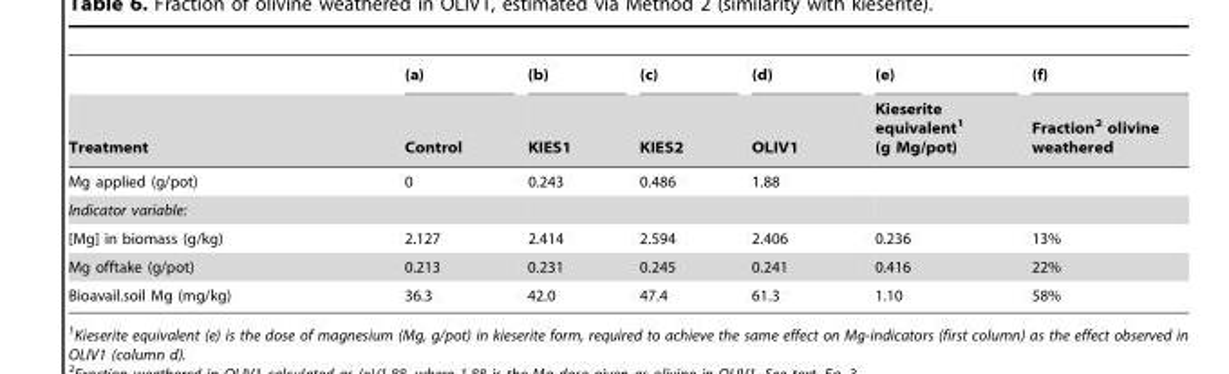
<table><thead><tr><td rowspan="2">Treatment</td><td rowspan="2">(a) Control</td><td rowspan="2">(b) KIES1</td><td rowspan="2">(c) KIES2</td><td rowspan="2">(d) OLIV1</td><td rowspan="2">(e) Kieserite equivalent<sup>1</sup> (g Mg/pot)</td><td rowspan="2">(f) Fraction<sup>2</sup> olivine weathered</td></tr><tr></tr></thead><tbody><tr><td>Mg applied (g/pot)</td><td>0</td><td>0.243</td><td>0.486</td><td>1.88</td><td></td><td></td></tr><tr><td colspan="7">Indicator variable:</td></tr><tr><td>[Mg] in biomass (g/kg)</td><td>2.127</td><td>2.414</td><td>2.594</td><td>2.406</td><td>0.236</td><td>13%</td></tr><tr><td>Mg offtake (g/pot)</td><td>0.213</td><td>0.231</td><td>0.245</td><td>0.241</td><td>0.416</td><td>22%</td></tr><tr><td>Bioavail.soil Mg (mg/kg)</td><td>36.3</td><td>42.0</td><td>47.4</td><td>61.3</td><td>1.10</td><td>58%</td></tr></tbody></table>